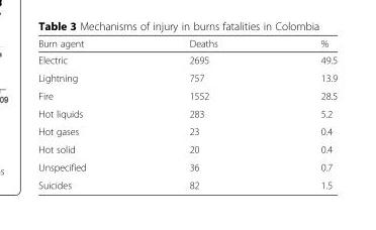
<table><thead><tr><td>Burn agent</td><td>Deaths</td><td>%</td></tr></thead><tbody><tr><td>Electric</td><td>2695</td><td>49.5</td></tr><tr><td>Lightning</td><td>757</td><td>13.9</td></tr><tr><td>Fire</td><td>1552</td><td>28.5</td></tr><tr><td>Hot liquids</td><td>283</td><td>5.2</td></tr><tr><td>Hot gases</td><td>23</td><td>0.4</td></tr><tr><td>Hot solid</td><td>20</td><td>0.4</td></tr><tr><td>Unspecified</td><td>36</td><td>0.7</td></tr><tr><td>Suicides</td><td>82</td><td>1.5</td></tr></tbody></table>